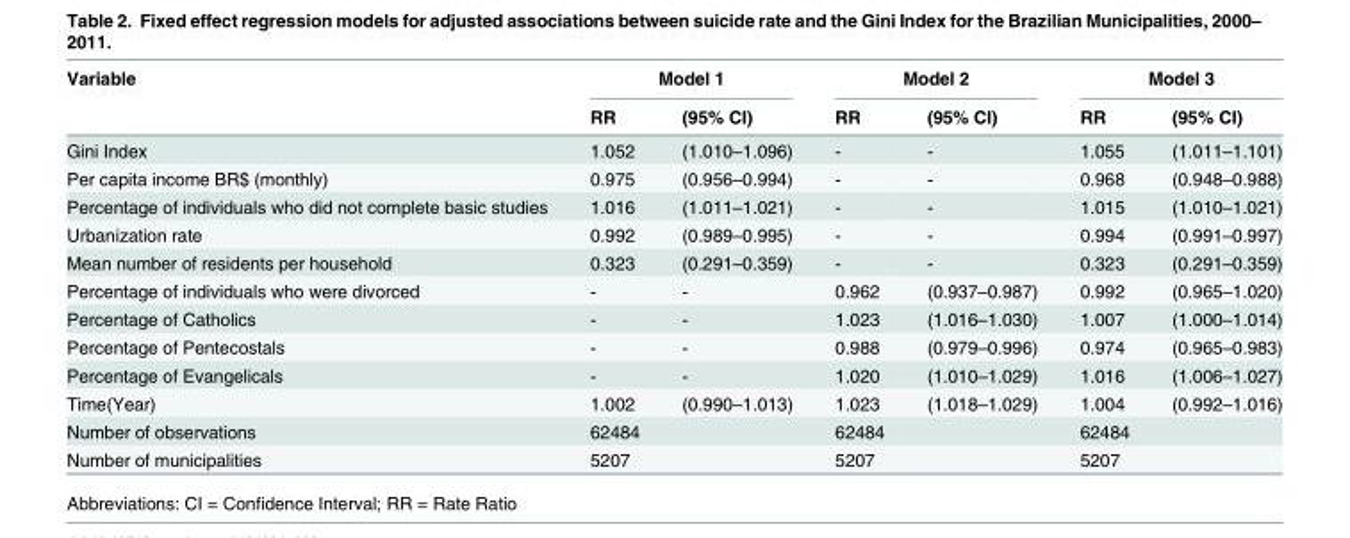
<table><thead><tr><td rowspan="2">Variable</td><td colspan="2">Model 1</td><td colspan="2">Model 2</td><td colspan="2">Model 3</td></tr><tr><td>RR</td><td>(95% CI)</td><td>RR</td><td>(95% CI)</td><td>RR</td><td>(95% CI)</td></tr></thead><tbody><tr><td>Gini Index</td><td>1.052</td><td>(1.010–1.096)</td><td>-</td><td>-</td><td>1.055</td><td>(1.011–1.101)</td></tr><tr><td>Per capita income BR$ (monthly)</td><td>0.975</td><td>(0.956–0.994)</td><td>-</td><td>-</td><td>0.968</td><td>(0.948–0.988)</td></tr><tr><td>Percentage of individuals who did not complete basic studies</td><td>1.016</td><td>(1.011–1.021)</td><td>-</td><td>-</td><td>1.015</td><td>(1.010–1.021)</td></tr><tr><td>Urbanization rate</td><td>0.992</td><td>(0.989–0.995)</td><td>-</td><td>-</td><td>0.994</td><td>(0.991–0.997)</td></tr><tr><td>Mean number of residents per household</td><td>0.323</td><td>(0.291–0.359)</td><td>-</td><td>-</td><td>0.323</td><td>(0.291–0.359)</td></tr><tr><td>Percentage of individuals who were divorced</td><td>-</td><td>-</td><td>0.962</td><td>(0.937–0.987)</td><td>0.992</td><td>(0.965–1.020)</td></tr><tr><td>Percentage of Catholics</td><td>-</td><td>-</td><td>1.023</td><td>(1.016–1.030)</td><td>1.007</td><td>(1.000–1.014)</td></tr><tr><td>Percentage of Pentecostals</td><td>-</td><td>-</td><td>0.988</td><td>(0.979–0.996)</td><td>0.974</td><td>(0.965–0.983)</td></tr><tr><td>Percentage of Evangelicals</td><td>-</td><td>-</td><td>1.020</td><td>(1.010–1.029)</td><td>1.016</td><td>(1.006–1.027)</td></tr><tr><td>Time(Year)</td><td>1.002</td><td>(0.990–1.013)</td><td>1.023</td><td>(1.018–1.029)</td><td>1.004</td><td>(0.992–1.016)</td></tr><tr><td>Number of observations</td><td>62484</td><td></td><td>62484</td><td></td><td>62484</td><td></td></tr><tr><td>Number of municipalities</td><td>5207</td><td></td><td>5207</td><td></td><td>5207</td><td></td></tr></tbody></table>